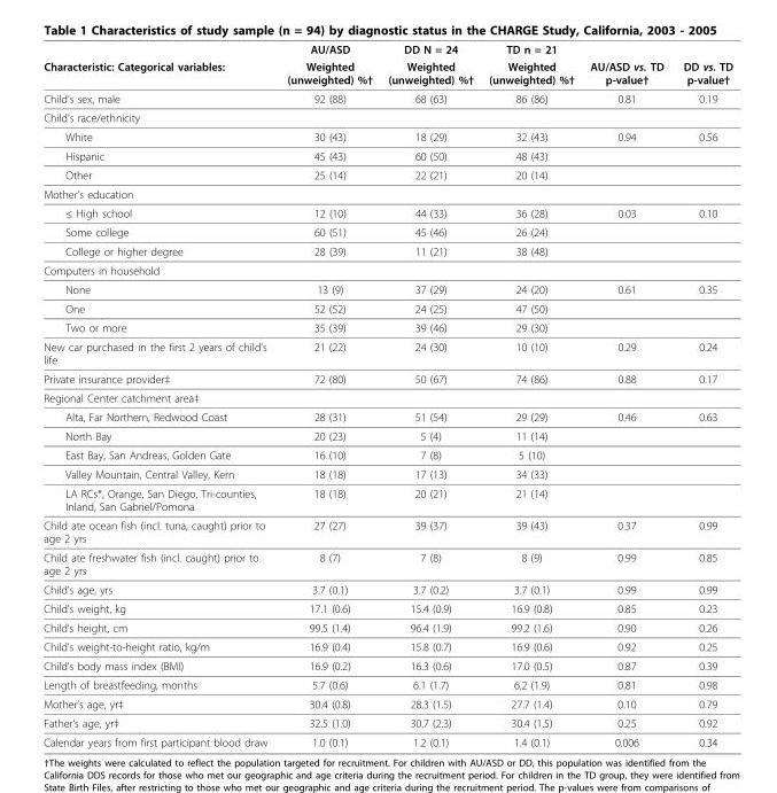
<table><thead><tr><td rowspan="2">Characteristic: Categorical variables:</td><td rowspan="2">AU/ASD Weighted (unweighted) %†</td><td rowspan="2">DD N = 24 Weighted (unweighted) %†</td><td rowspan="2">TD n = 21 Weighted (unweighted) %†</td><td rowspan="2">AU/ASD vs. TD p-value†</td><td rowspan="2">DD vs. TD p-value†</td></tr><tr></tr></thead><tbody><tr><td>Child’s sex, male</td><td>92 (88)</td><td>68 (63)</td><td>86 (86)</td><td>0.81</td><td>0.19</td></tr><tr><td colspan="6">Child’s race/ethnicity</td></tr><tr><td>White</td><td>30 (43)</td><td>18 (29)</td><td>32 (43)</td><td>0.94</td><td>0.56</td></tr><tr><td>Hispanic</td><td>45 (43)</td><td>60 (50)</td><td>48 (43)</td><td></td><td></td></tr><tr><td>Other</td><td>25 (14)</td><td>22 (21)</td><td>20 (14)</td><td></td><td></td></tr><tr><td colspan="6">Mother’s education</td></tr><tr><td>≤ High school</td><td>12 (10)</td><td>44 (33)</td><td>36 (28)</td><td>0.03</td><td>0.10</td></tr><tr><td>Some college</td><td>60 (51)</td><td>45 (46)</td><td>26 (24)</td><td></td><td></td></tr><tr><td>College or higher degree</td><td>28 (39)</td><td>11 (21)</td><td>38 (48)</td><td></td><td></td></tr><tr><td colspan="6">Computers in household</td></tr><tr><td>None</td><td>13 (9)</td><td>37 (29)</td><td>24 (20)</td><td>0.61</td><td>0.35</td></tr><tr><td>One</td><td>52 (52)</td><td>24 (25)</td><td>47 (50)</td><td></td><td></td></tr><tr><td>Two or more</td><td>35 (39)</td><td>39 (46)</td><td>29 (30)</td><td></td><td></td></tr><tr><td>New car purchased in the first 2 years of child’s life</td><td>21 (22)</td><td>24 (30)</td><td>10 (10)</td><td>0.29</td><td>0.24</td></tr><tr><td>Private insurance provider‡</td><td>72 (80)</td><td>50 (67)</td><td>74 (86)</td><td>0.88</td><td>0.17</td></tr><tr><td colspan="6">Regional Center catchment area‡</td></tr><tr><td>Alta, Far Northern, Redwood Coast</td><td>28 (31)</td><td>51 (54)</td><td>29 (29)</td><td>0.46</td><td>0.63</td></tr><tr><td>North Bay</td><td>20 (23)</td><td>5 (4)</td><td>11 (14)</td><td></td><td></td></tr><tr><td>East Bay, San Andreas, Golden Gate</td><td>16 (10)</td><td>7 (8)</td><td>5 (10)</td><td></td><td></td></tr><tr><td>Valley Mountain, Central Valley, Kern</td><td>18 (18)</td><td>17 (13)</td><td>34 (33)</td><td></td><td></td></tr><tr><td>LA RCs*, Orange, San Diego, Tri-counties, Inland, San Gabriel/Pomona</td><td>18 (18)</td><td>20 (21)</td><td>21 (14)</td><td></td><td></td></tr><tr><td>Child ate ocean fish (incl. tuna, caught) prior to age 2 yrs</td><td>27 (27)</td><td>39 (37)</td><td>39 (43)</td><td>0.37</td><td>0.99</td></tr><tr><td>Child ate freshwater fish (incl. caught) prior to age 2 yrs</td><td>8 (7)</td><td>7 (8)</td><td>8 (9)</td><td>0.99</td><td>0.85</td></tr><tr><td>Child’s age, yrs</td><td>3.7 (0.1)</td><td>3.7 (0.2)</td><td>3.7 (0.1)</td><td>0.99</td><td>0.99</td></tr><tr><td>Child’s weight, kg</td><td>17.1 (0.6)</td><td>15.4 (0.9)</td><td>16.9 (0.8)</td><td>0.85</td><td>0.23</td></tr><tr><td>Child’s height, cm</td><td>99.5 (1.4)</td><td>96.4 (1.9)</td><td>99.2 (1.6)</td><td>0.90</td><td>0.26</td></tr><tr><td>Child’s weight-to-height ratio, kg/m</td><td>16.9 (0.4)</td><td>15.8 (0.7)</td><td>16.9 (0.6)</td><td>0.92</td><td>0.25</td></tr><tr><td>Child’s body mass index (BMI)</td><td>16.9 (0.2)</td><td>16.3 (0.6)</td><td>17.0 (0.5)</td><td>0.87</td><td>0.39</td></tr><tr><td>Length of breastfeeding, months</td><td>5.7 (0.6)</td><td>6.1 (1.7)</td><td>6.2 (1.9)</td><td>0.81</td><td>0.98</td></tr><tr><td>Mother’s age, yr‡</td><td>30.4 (0.8)</td><td>28.3 (1.5)</td><td>27.7 (1.4)</td><td>0.10</td><td>0.79</td></tr><tr><td>Father’s age, yr‡</td><td>32.5 (1.0)</td><td>30.7 (2.3)</td><td>30.4 (1.5)</td><td>0.25</td><td>0.92</td></tr><tr><td>Calendar years from first participant blood draw</td><td>1.0 (0.1)</td><td>1.2 (0.1)</td><td>1.4 (0.1)</td><td>0.006</td><td>0.34</td></tr></tbody></table>